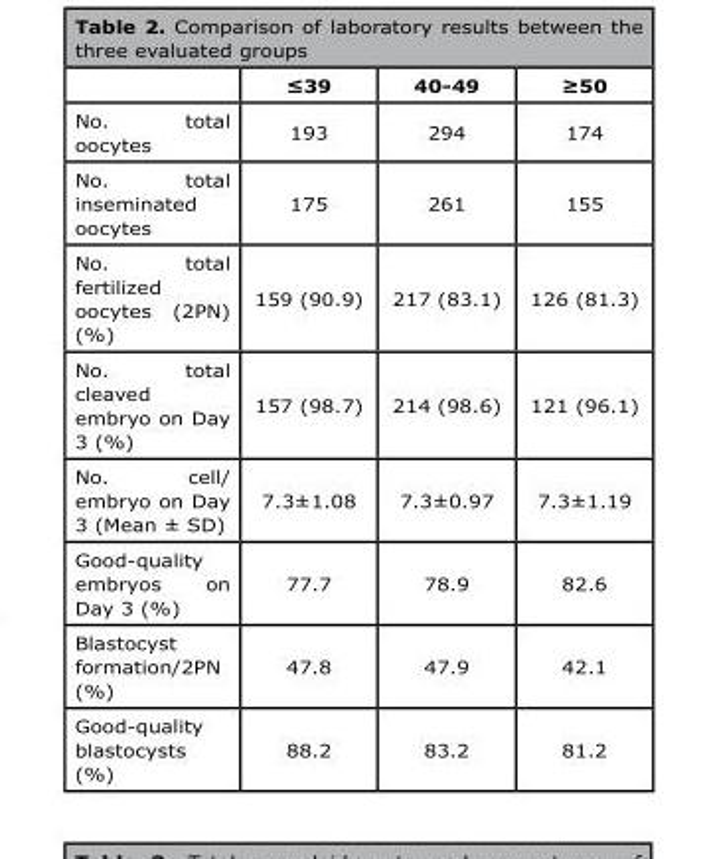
<table><thead><tr><td></td><td>≤39</td><td>40-49</td><td>≥50</td></tr></thead><tbody><tr><td>No. total oocytes</td><td>193</td><td>294</td><td>174</td></tr><tr><td>No. total inseminated oocytes</td><td>175</td><td>261</td><td>155</td></tr><tr><td>No. total fertilized oocytes (2PN) (%)</td><td>159 (90.9)</td><td>217 (83.1)</td><td>126 (81.3)</td></tr><tr><td>No. total cleaved embryo on Day 3 (%)</td><td>157 (98.7)</td><td>214 (98.6)</td><td>121 (96.1)</td></tr><tr><td>No. cell/ embryo on Day 3 (Mean ± SD)</td><td>7.3±1.08</td><td>7.3±0.97</td><td>7.3±1.19</td></tr><tr><td>Good-quality embryos on Day 3 (%)</td><td>77.7</td><td>78.9</td><td>82.6</td></tr><tr><td>Blastocyst formation/2PN (%)</td><td>47.8</td><td>47.9</td><td>42.1</td></tr><tr><td>Good-quality blastocysts (%)</td><td>88.2</td><td>83.2</td><td>81.2</td></tr></tbody></table>